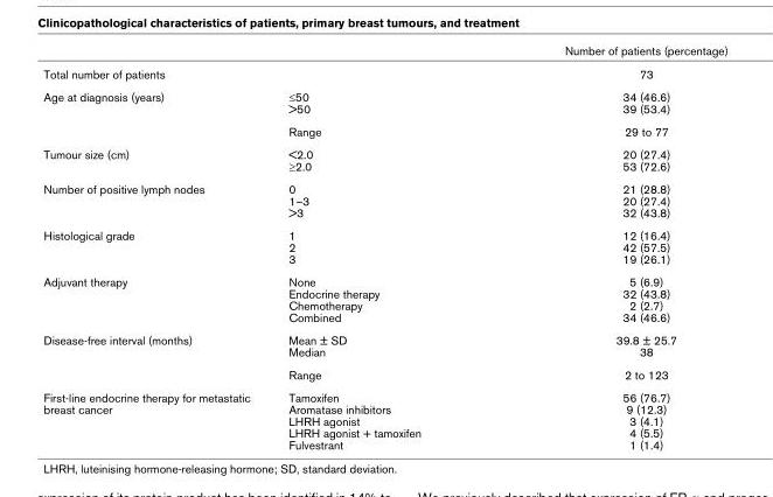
<table><thead><tr><td></td><td></td><td>Number of patients (percentage)</td></tr></thead><tbody><tr><td>Total number of patients</td><td></td><td>73</td></tr><tr><td rowspan="2">Age at diagnosis (years)</td><td>≤50 &gt;50</td><td>34 (46.6) 39 (53.4)</td></tr><tr><td>Range</td><td>29 to 77</td></tr><tr><td>Tumour size (cm)</td><td>&lt;2.0 ≥2.0</td><td>20 (27.4) 53 (72.6)</td></tr><tr><td>Number of positive lymph nodes</td><td>0 1–3 &gt;3</td><td>21 (28.8) 20 (27.4) 32 (43.8)</td></tr><tr><td>Histological grade</td><td>1 2 3</td><td>12 (16.4) 42 (57.5) 19 (26.1)</td></tr><tr><td>Adjuvant therapy</td><td>None Endocrine therapy Chemotherapy Combined</td><td>5 (6.9) 32 (43.8) 2 (2.7) 34 (46.6)</td></tr><tr><td rowspan="2">Disease-free interval (months)</td><td>Mean ± SD Median</td><td>39.8 ± 25.7 38</td></tr><tr><td>Range</td><td>2 to 123</td></tr><tr><td>First-line endocrine therapy for metastatic breast cancer</td><td>Tamoxifen Aromatase inhibitors LHRH agonist LHRH agonist + tamoxifen Fulvestrant</td><td>56 (76.7) 9 (12.3) 3 (4.1) 4 (5.5) 1 (1.4)</td></tr></tbody></table>